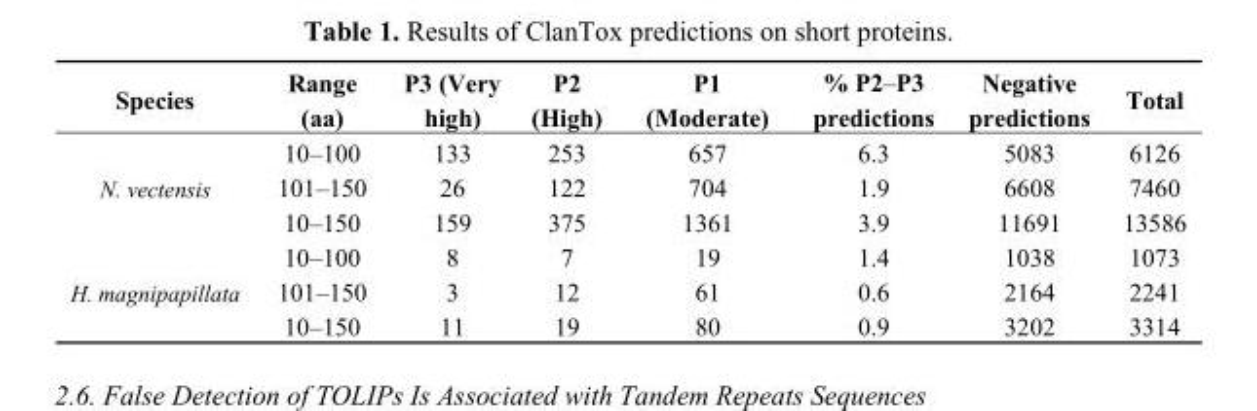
<table><thead><tr><td>Species</td><td>Range (aa)</td><td>P3 (Very high)</td><td>P2 (High)</td><td>P1 (Moderate)</td><td>% P2–P3 predictions</td><td>Negative predictions</td><td>Total</td></tr></thead><tbody><tr><td rowspan="3">N. vectensis</td><td>10–100</td><td>133</td><td>253</td><td>657</td><td>6.3</td><td>5083</td><td>6126</td></tr><tr><td>101–150</td><td>26</td><td>122</td><td>704</td><td>1.9</td><td>6608</td><td>7460</td></tr><tr><td>10–150</td><td>159</td><td>375</td><td>1361</td><td>3.9</td><td>11691</td><td>13586</td></tr><tr><td rowspan="3">H. magnipapillata</td><td>10–100</td><td>8</td><td>7</td><td>19</td><td>1.4</td><td>1038</td><td>1073</td></tr><tr><td>101–150</td><td>3</td><td>12</td><td>61</td><td>0.6</td><td>2164</td><td>2241</td></tr><tr><td>10–150</td><td>11</td><td>19</td><td>80</td><td>0.9</td><td>3202</td><td>3314</td></tr></tbody></table>